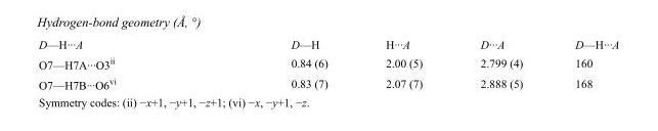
<table><tbody><tr><td>D—H···A</td><td>D—H</td><td>H···A</td><td>D···A</td><td>D—H···A</td></tr><tr><td>O7—H7A···O3<sup>ii</sup></td><td>0.84 (6)</td><td>2.00 (5)</td><td>2.799 (4)</td><td>160</td></tr><tr><td>O7—H7B···O6<sup>vi</sup></td><td>0.83 (7)</td><td>2.07 (7)</td><td>2.888 (5)</td><td>168</td></tr></tbody></table>